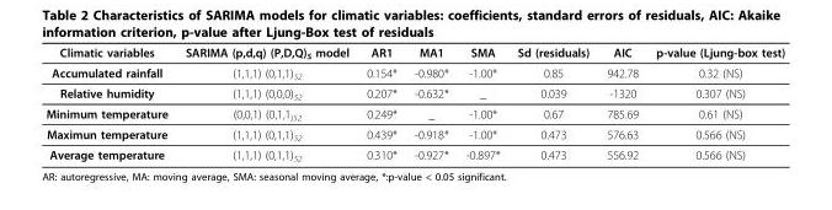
<table><thead><tr><td>Climatic variables</td><td>SARIMA (p,d,q) (P,D,Q)<sub>S</sub> model</td><td>AR1</td><td>MA1</td><td>SMA</td><td>Sd (residuals)</td><td>AIC</td><td>p-value (Ljung-box test)</td></tr></thead><tbody><tr><td>Accumulated rainfall</td><td>(1,1,1) (0,1,1)<sub>52</sub></td><td>0.154*</td><td>-0.980*</td><td>-1.00*</td><td>0.85</td><td>942.78</td><td>0.32 (NS)</td></tr><tr><td>Relative humidity</td><td>(1,1,1) (0,0,0)<sub>52</sub></td><td>0.207*</td><td>-0.632*</td><td>_</td><td>0.039</td><td>-1320</td><td>0.307 (NS)</td></tr><tr><td>Minimum temperature</td><td>(0,0,1) (0,1,1<sub>)52</sub></td><td>0.249*</td><td>_</td><td>-1.00*</td><td>0.67</td><td>785.69</td><td>0.61 (NS)</td></tr><tr><td>Maximun temperature</td><td>(1,1,1) (0,1,1)<sub>52</sub></td><td>0.439*</td><td>-0.918*</td><td>-1.00*</td><td>0.473</td><td>576.63</td><td>0.566 (NS)</td></tr><tr><td>Average temperature</td><td>(1,1,1) (0,1,1)<sub>52</sub></td><td>0.310*</td><td>-0.927*</td><td>-0.897*</td><td>0.473</td><td>556.92</td><td>0.566 (NS)</td></tr></tbody></table>